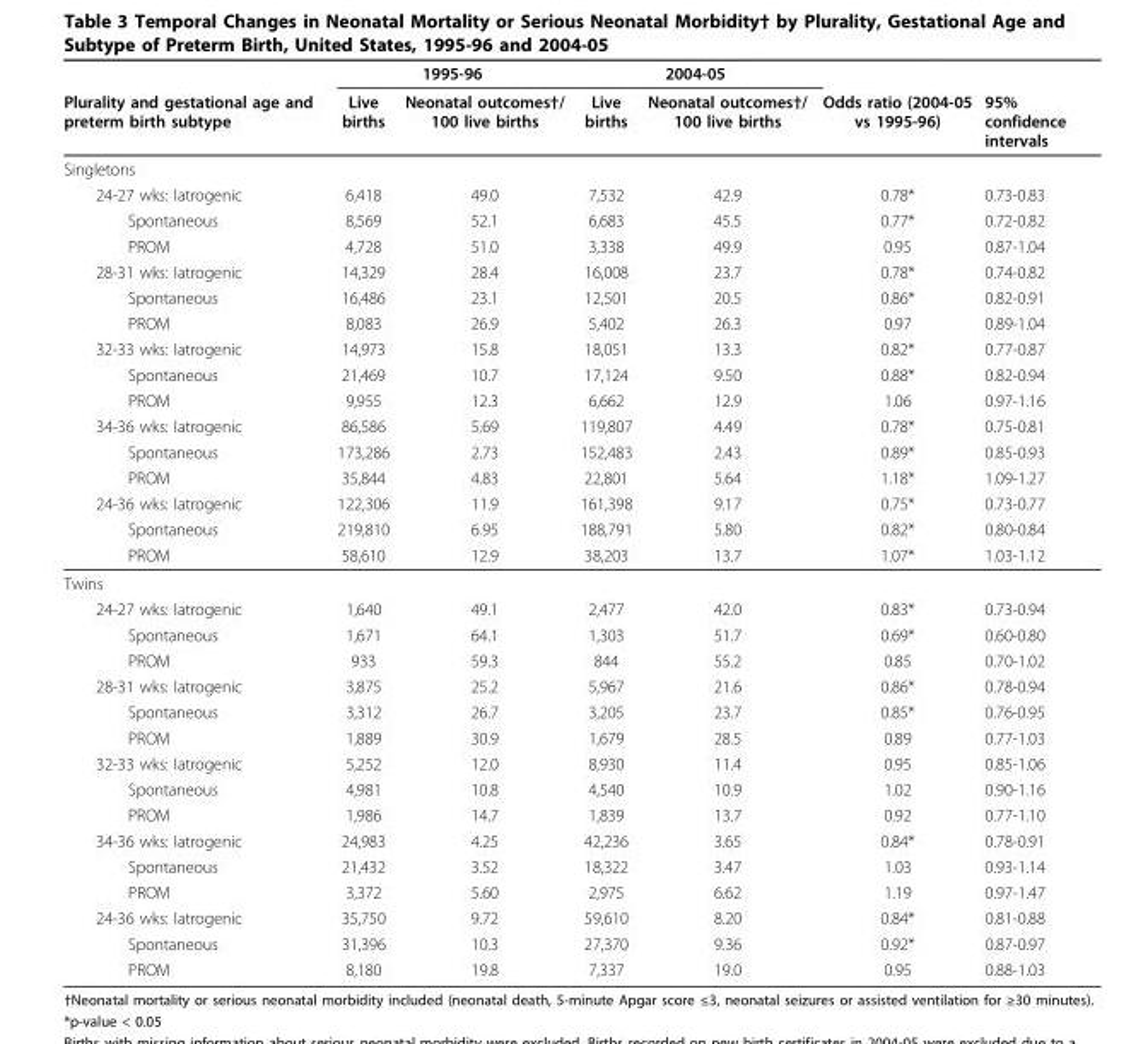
<table><thead><tr><td rowspan="2">Plurality and gestational age and preterm birth subtype</td><td colspan="2">1995-96</td><td colspan="2">2004-05</td><td rowspan="2">Odds ratio (2004-05 vs 1995-96)</td><td rowspan="2">95% confidence intervals</td></tr><tr><td>Live births</td><td>Neonatal outcomes†/ 100 live births</td><td>Live births</td><td>Neonatal outcomes†/ 100 live births</td></tr></thead><tbody><tr><td colspan="7">Singletons</td></tr><tr><td>24-27 wks: Iatrogenic</td><td>6,418</td><td>49.0</td><td>7,532</td><td>42.9</td><td>0.78*</td><td>0.73-0.83</td></tr><tr><td>Spontaneous</td><td>8,569</td><td>52.1</td><td>6,683</td><td>45.5</td><td>0.77*</td><td>0.72-0.82</td></tr><tr><td>PROM</td><td>4,728</td><td>51.0</td><td>3,338</td><td>49.9</td><td>0.95</td><td>0.87-1.04</td></tr><tr><td>28-31 wks: Iatrogenic</td><td>14,329</td><td>28.4</td><td>16,008</td><td>23.7</td><td>0.78*</td><td>0.74-0.82</td></tr><tr><td>Spontaneous</td><td>16,486</td><td>23.1</td><td>12,501</td><td>20.5</td><td>0.86*</td><td>0.82-0.91</td></tr><tr><td>PROM</td><td>8,083</td><td>26.9</td><td>5,402</td><td>26.3</td><td>0.97</td><td>0.89-1.04</td></tr><tr><td>32-33 wks: Iatrogenic</td><td>14,973</td><td>15.8</td><td>18,051</td><td>13.3</td><td>0.82*</td><td>0.77-0.87</td></tr><tr><td>Spontaneous</td><td>21,469</td><td>10.7</td><td>17,124</td><td>9.50</td><td>0.88*</td><td>0.82-0.94</td></tr><tr><td>PROM</td><td>9,955</td><td>12.3</td><td>6,662</td><td>12.9</td><td>1.06</td><td>0.97-1.16</td></tr><tr><td>34-36 wks: Iatrogenic</td><td>86,586</td><td>5.69</td><td>119,807</td><td>4.49</td><td>0.78*</td><td>0.75-0.81</td></tr><tr><td>Spontaneous</td><td>173,286</td><td>2.73</td><td>152,483</td><td>2.43</td><td>0.89*</td><td>0.85-0.93</td></tr><tr><td>PROM</td><td>35,844</td><td>4.83</td><td>22,801</td><td>5.64</td><td>1.18*</td><td>1.09-1.27</td></tr><tr><td>24-36 wks: Iatrogenic</td><td>122,306</td><td>11.9</td><td>161,398</td><td>9.17</td><td>0.75*</td><td>0.73-0.77</td></tr><tr><td>Spontaneous</td><td>219,810</td><td>6.95</td><td>188,791</td><td>5.80</td><td>0.82*</td><td>0.80-0.84</td></tr><tr><td>PROM</td><td>58,610</td><td>12.9</td><td>38,203</td><td>13.7</td><td>1.07*</td><td>1.03-1.12</td></tr><tr><td colspan="7">Twins</td></tr><tr><td>24-27 wks: Iatrogenic</td><td>1,640</td><td>49.1</td><td>2,477</td><td>42.0</td><td>0.83*</td><td>0.73-0.94</td></tr><tr><td>Spontaneous</td><td>1,671</td><td>64.1</td><td>1,303</td><td>51.7</td><td>0.69*</td><td>0.60-0.80</td></tr><tr><td>PROM</td><td>933</td><td>59.3</td><td>844</td><td>55.2</td><td>0.85</td><td>0.70-1.02</td></tr><tr><td>28-31 wks: Iatrogenic</td><td>3,875</td><td>25.2</td><td>5,967</td><td>21.6</td><td>0.86*</td><td>0.78-0.94</td></tr><tr><td>Spontaneous</td><td>3,312</td><td>26.7</td><td>3,205</td><td>23.7</td><td>0.85*</td><td>0.76-0.95</td></tr><tr><td>PROM</td><td>1,889</td><td>30.9</td><td>1,679</td><td>28.5</td><td>0.89</td><td>0.77-1.03</td></tr><tr><td>32-33 wks: Iatrogenic</td><td>5,252</td><td>12.0</td><td>8,930</td><td>11.4</td><td>0.95</td><td>0.85-1.06</td></tr><tr><td>Spontaneous</td><td>4,981</td><td>10.8</td><td>4,540</td><td>10.9</td><td>1.02</td><td>0.90-1.16</td></tr><tr><td>PROM</td><td>1,986</td><td>14.7</td><td>1,839</td><td>13.7</td><td>0.92</td><td>0.77-1.10</td></tr><tr><td>34-36 wks: Iatrogenic</td><td>24,983</td><td>4.25</td><td>42,236</td><td>3.65</td><td>0.84*</td><td>0.78-0.91</td></tr><tr><td>Spontaneous</td><td>21,432</td><td>3.52</td><td>18,322</td><td>3.47</td><td>1.03</td><td>0.93-1.14</td></tr><tr><td>PROM</td><td>3,372</td><td>5.60</td><td>2,975</td><td>6.62</td><td>1.19</td><td>0.97-1.47</td></tr><tr><td>24-36 wks: Iatrogenic</td><td>35,750</td><td>9.72</td><td>59,610</td><td>8.20</td><td>0.84*</td><td>0.81-0.88</td></tr><tr><td>Spontaneous</td><td>31,396</td><td>10.3</td><td>27,370</td><td>9.36</td><td>0.92*</td><td>0.87-0.97</td></tr><tr><td>PROM</td><td>8,180</td><td>19.8</td><td>7,337</td><td>19.0</td><td>0.95</td><td>0.88-1.03</td></tr></tbody></table>